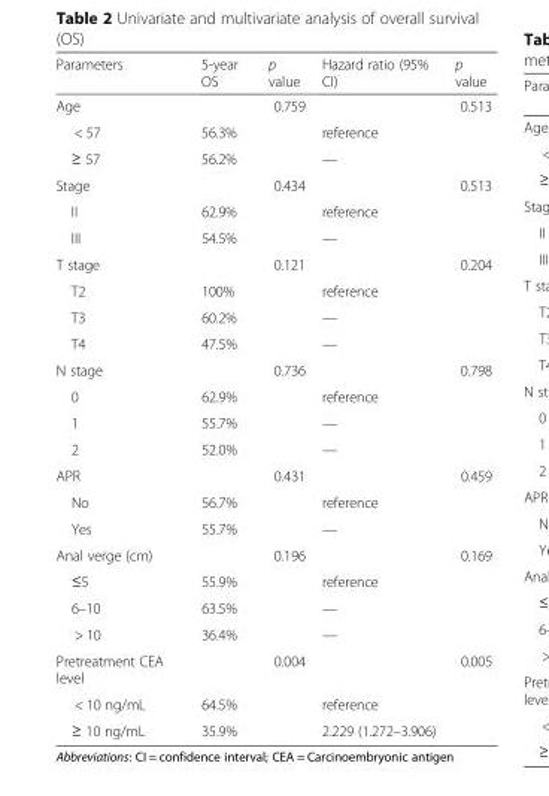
<table><thead><tr><td>Parameters</td><td>5-year OS</td><td>p value</td><td>Hazard ratio (95% CI)</td><td>p value</td></tr></thead><tbody><tr><td>Age</td><td></td><td>0.759</td><td></td><td>0.513</td></tr><tr><td>&lt; 57</td><td>56.3%</td><td></td><td>reference</td><td></td></tr><tr><td>≥ 57</td><td>56.2%</td><td></td><td>—</td><td></td></tr><tr><td>Stage</td><td></td><td>0.434</td><td></td><td>0.513</td></tr><tr><td>II</td><td>62.9%</td><td></td><td>reference</td><td></td></tr><tr><td>III</td><td>54.5%</td><td></td><td>—</td><td></td></tr><tr><td>T stage</td><td></td><td>0.121</td><td></td><td>0.204</td></tr><tr><td>T2</td><td>100%</td><td></td><td>reference</td><td></td></tr><tr><td>T3</td><td>60.2%</td><td></td><td>—</td><td></td></tr><tr><td>T4</td><td>47.5%</td><td></td><td>—</td><td></td></tr><tr><td>N stage</td><td></td><td>0.736</td><td></td><td>0.798</td></tr><tr><td>0</td><td>62.9%</td><td></td><td>reference</td><td></td></tr><tr><td>1</td><td>55.7%</td><td></td><td>—</td><td></td></tr><tr><td>2</td><td>52.0%</td><td></td><td>—</td><td></td></tr><tr><td>APR</td><td></td><td>0.431</td><td></td><td>0.459</td></tr><tr><td>No</td><td>56.7%</td><td></td><td>reference</td><td></td></tr><tr><td>Yes</td><td>55.7%</td><td></td><td>—</td><td></td></tr><tr><td>Anal verge (cm)</td><td></td><td>0.196</td><td></td><td>0.169</td></tr><tr><td>≤5</td><td>55.9%</td><td></td><td>reference</td><td></td></tr><tr><td>6–10</td><td>63.5%</td><td></td><td>—</td><td></td></tr><tr><td>&gt; 10</td><td>36.4%</td><td></td><td>—</td><td></td></tr><tr><td>Pretreatment CEA level</td><td></td><td>0.004</td><td></td><td>0.005</td></tr><tr><td>&lt; 10 ng/mL</td><td>64.5%</td><td></td><td>reference</td><td></td></tr><tr><td>≥ 10 ng/mL</td><td>35.9%</td><td></td><td>2.229 (1.272–3.906)</td><td></td></tr></tbody></table>